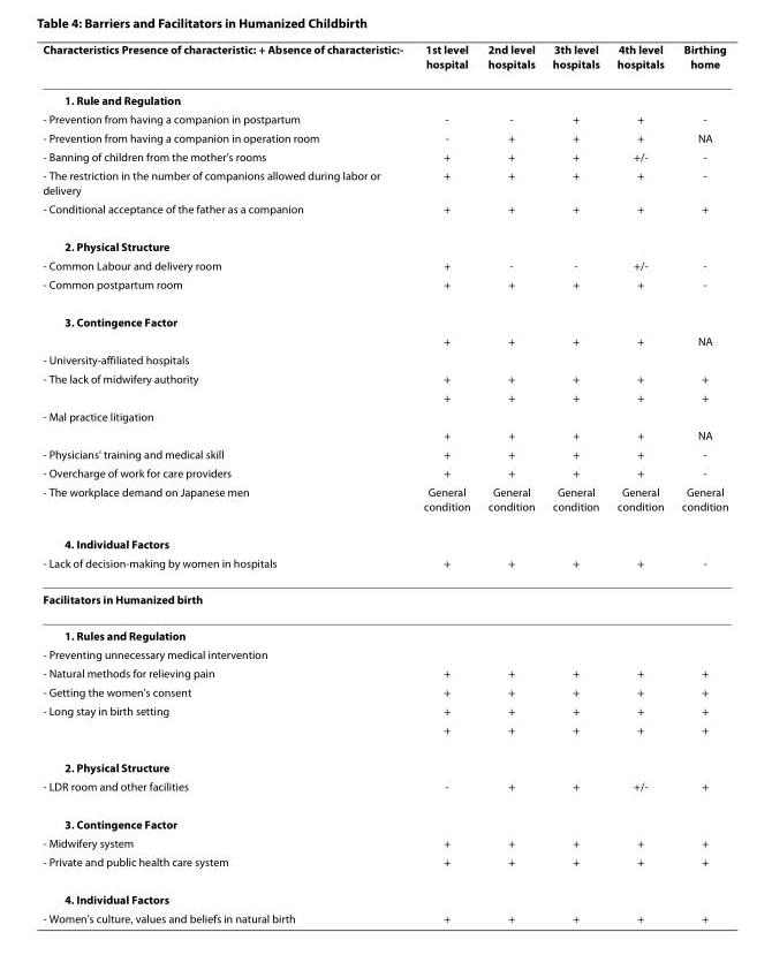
<table><thead><tr><td>Characteristics Presence of characteristic: + Absence of characteristic:-</td><td>1st level hospital</td><td>2nd level hospitals</td><td>3th level hospitals</td><td>4th level hospitals</td><td>Birthing home</td></tr></thead><tbody><tr><td colspan="6">1. Rule and Regulation</td></tr><tr><td>- Prevention from having a companion in postpartum</td><td>-</td><td>-</td><td>+</td><td>+</td><td>-</td></tr><tr><td>- Prevention from having a companion in operation room</td><td>-</td><td>+</td><td>+</td><td>+</td><td>NA</td></tr><tr><td>- Banning of children from the mother&#x27;s rooms</td><td>+</td><td>+</td><td>+</td><td>+/-</td><td>-</td></tr><tr><td>- The restriction in the number of companions allowed during labor or delivery</td><td>+</td><td>+</td><td>+</td><td>+</td><td>-</td></tr><tr><td>- Conditional acceptance of the father as a companion</td><td>+</td><td>+</td><td>+</td><td>+</td><td>+</td></tr><tr><td colspan="6">2. Physical Structure</td></tr><tr><td>- Common Labour and delivery room</td><td>+</td><td>-</td><td>-</td><td>+/-</td><td>-</td></tr><tr><td>- Common postpartum room</td><td>+</td><td>+</td><td>+</td><td>+</td><td>-</td></tr><tr><td colspan="6">3. Contingence Factor</td></tr><tr><td></td><td>+</td><td>+</td><td>+</td><td>+</td><td>NA</td></tr><tr><td colspan="6">- University-affiliated hospitals</td></tr><tr><td rowspan="2">- The lack of midwifery authority</td><td>+</td><td>+</td><td>+</td><td>+</td><td>+</td></tr><tr><td>+</td><td>+</td><td>+</td><td>+</td><td>+</td></tr><tr><td colspan="6">- Mal practice litigation</td></tr><tr><td></td><td>+</td><td>+</td><td>+</td><td>+</td><td>NA</td></tr><tr><td>- Physicians&#x27; training and medical skill</td><td>+</td><td>+</td><td>+</td><td>+</td><td>-</td></tr><tr><td>- Overcharge of work for care providers</td><td>+</td><td>+</td><td>+</td><td>+</td><td>-</td></tr><tr><td>- The workplace demand on Japanese men</td><td>General condition</td><td>General condition</td><td>General condition</td><td>General condition</td><td>General condition</td></tr><tr><td colspan="6">4. Individual Factors</td></tr><tr><td>- Lack of decision-making by women in hospitals</td><td>+</td><td>+</td><td>+</td><td>+</td><td>-</td></tr><tr><td colspan="6">Facilitators in Humanized birth</td></tr><tr><td colspan="6">1. Rules and Regulation</td></tr><tr><td colspan="6">- Preventing unnecessary medical intervention</td></tr><tr><td>- Natural methods for relieving pain</td><td>+</td><td>+</td><td>+</td><td>+</td><td>+</td></tr><tr><td>- Getting the women&#x27;s consent</td><td>+</td><td>+</td><td>+</td><td>+</td><td>+</td></tr><tr><td rowspan="2">- Long stay in birth setting</td><td>+</td><td>+</td><td>+</td><td>+</td><td>+</td></tr><tr><td>+</td><td>+</td><td>+</td><td>+</td><td>+</td></tr><tr><td colspan="6">2. Physical Structure</td></tr><tr><td>- LDR room and other facilities</td><td>-</td><td>+</td><td>+</td><td>+/-</td><td>+</td></tr><tr><td colspan="6">3. Contingence Factor</td></tr><tr><td>- Midwifery system</td><td>+</td><td>+</td><td>+</td><td>+</td><td>+</td></tr><tr><td>- Private and public health care system</td><td>+</td><td>+</td><td>+</td><td>+</td><td>+</td></tr><tr><td colspan="6">4. Individual Factors</td></tr><tr><td>- Women&#x27;s culture, values and beliefs in natural birth</td><td>+</td><td>+</td><td>+</td><td>+</td><td>+</td></tr></tbody></table>